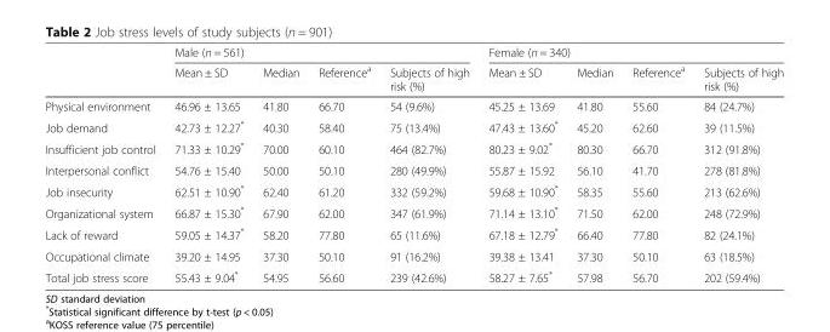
<table><thead><tr><td rowspan="2"></td><td colspan="4">Male (n = 561)</td><td colspan="4">Female (n = 340)</td></tr><tr><td>Mean ± SD</td><td>Median</td><td>Reference<sup>a</sup></td><td>Subjects of high risk (%)</td><td>Mean ± SD</td><td>Median</td><td>Reference<sup>a</sup></td><td>Subjects of high risk (%)</td></tr></thead><tbody><tr><td>Physical environment</td><td>46.96 ± 13.65</td><td>41.80</td><td>66.70</td><td>54 (9.6%)</td><td>45.25 ± 13.69</td><td>41.80</td><td>55.60</td><td>84 (24.7%)</td></tr><tr><td>Job demand</td><td>42.73 ± 12.27*</td><td>40.30</td><td>58.40</td><td>75 (13.4%)</td><td>47.43 ± 13.60*</td><td>45.20</td><td>62.60</td><td>39 (11.5%)</td></tr><tr><td>Insufficient job control</td><td>71.33 ± 10.29*</td><td>70.00</td><td>60.10</td><td>464 (82.7%)</td><td>80.23 ± 9.02*</td><td>80.30</td><td>66.70</td><td>312 (91.8%)</td></tr><tr><td>Interpersonal conflict</td><td>54.76 ± 15.40</td><td>50.00</td><td>50.10</td><td>280 (49.9%)</td><td>55.87 ± 15.92</td><td>56.10</td><td>41.70</td><td>278 (81.8%)</td></tr><tr><td>Job insecurity</td><td>62.51 ± 10.90*</td><td>62.40</td><td>61.20</td><td>332 (59.2%)</td><td>59.68 ± 10.90*</td><td>58.35</td><td>55.60</td><td>213 (62.6%)</td></tr><tr><td>Organizational system</td><td>66.87 ± 15.30*</td><td>67.90</td><td>62.00</td><td>347 (61.9%)</td><td>71.14 ± 13.10*</td><td>71.50</td><td>62.00</td><td>248 (72.9%)</td></tr><tr><td>Lack of reward</td><td>59.05 ± 14.37*</td><td>58.20</td><td>77.80</td><td>65 (11.6%)</td><td>67.18 ± 12.79*</td><td>66.40</td><td>77.80</td><td>82 (24.1%)</td></tr><tr><td>Occupational climate</td><td>39.20 ± 14.95</td><td>37.30</td><td>50.10</td><td>91 (16.2%)</td><td>39.38 ± 13.41</td><td>37.30</td><td>50.10</td><td>63 (18.5%)</td></tr><tr><td>Total job stress score</td><td>55.43 ± 9.04*</td><td>54.95</td><td>56.60</td><td>239 (42.6%)</td><td>58.27 ± 7.65*</td><td>57.98</td><td>56.70</td><td>202 (59.4%)</td></tr></tbody></table>